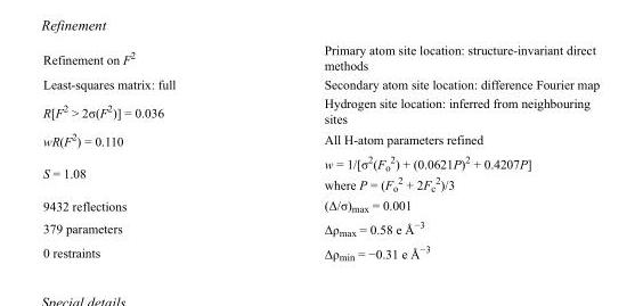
<table><tbody><tr><td>Refinement on F<sup>2</sup></td><td>Primary atom site location: structure-invariant direct methods</td></tr><tr><td>Least-squares matrix: full</td><td>Secondary atom site location: difference Fourier map</td></tr><tr><td>R[F<sup>2</sup> &gt; 2σ(F<sup>2</sup>)] = 0.036</td><td>Hydrogen site location: inferred from neighbouring sites</td></tr><tr><td>wR(F<sup>2</sup>) = 0.110</td><td>All H-atom parameters refined</td></tr><tr><td>S = 1.08</td><td>w = 1/[σ<sup>2</sup>(F<sub>o</sub> <sup>2</sup>) + (0.0621P)<sup>2</sup> + 0.4207P] where P = (F<sub>o</sub> <sup>2</sup> + 2F<sub>c</sub> <sup>2</sup>)/3</td></tr><tr><td>9432 reflections</td><td>(Δ/σ)<sub>max</sub> = 0.001</td></tr><tr><td>379 parameters</td><td>Δρ<sub>max</sub> = 0.58 e Å<sup>−3</sup></td></tr><tr><td>0 restraints</td><td>Δρ<sub>min</sub> = −0.31 e Å<sup>−3</sup></td></tr></tbody></table>